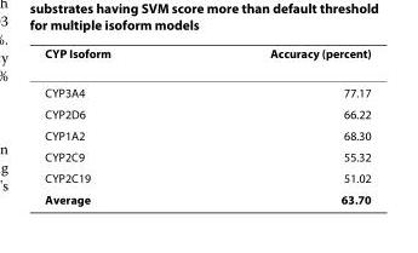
<table><thead><tr><td>CYP Isoform</td><td>Accuracy (percent)</td></tr></thead><tbody><tr><td>CYP3A4</td><td>77.17</td></tr><tr><td>CYP2D6</td><td>66.22</td></tr><tr><td>CYP1A2</td><td>68.30</td></tr><tr><td>CYP2C9</td><td>55.32</td></tr><tr><td>CYP2C19</td><td>51.02</td></tr><tr><td>Average</td><td>63.70</td></tr></tbody></table>